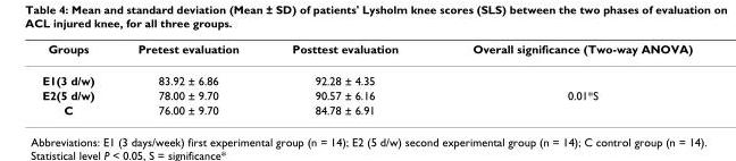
<table><thead><tr><td>Groups</td><td>Pretest evaluation</td><td>Posttest evaluation</td><td>Overall significance (Two-way ANOVA)</td></tr></thead><tbody><tr><td>E1(3 d/w)</td><td>83.92 ± 6.86</td><td>92.28 ± 4.35</td><td></td></tr><tr><td>E2(5 d/w)</td><td>78.00 ± 9.70</td><td>90.57 ± 6.16</td><td>0.01*S</td></tr><tr><td>C</td><td>76.00 ± 9.70</td><td>84.78 ± 6.91</td><td></td></tr></tbody></table>